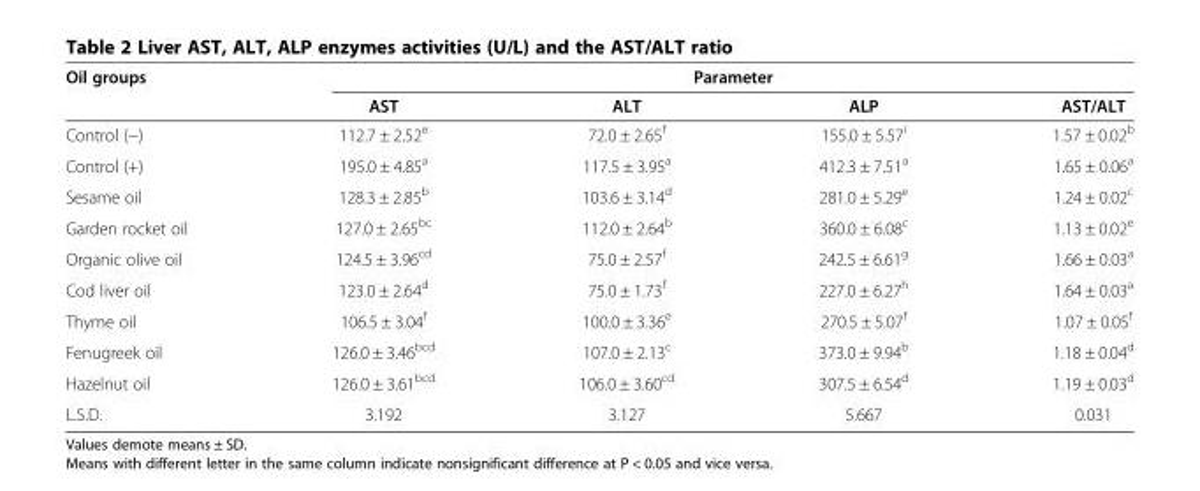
<table><thead><tr><td rowspan="2">Oil groups</td><td colspan="4">Parameter</td></tr><tr><td>AST</td><td>ALT</td><td>ALP</td><td>AST/ALT</td></tr></thead><tbody><tr><td>Control (−)</td><td>112.7 ± 2.52<sup>e</sup></td><td>72.0 ± 2.65<sup>f</sup></td><td>155.0 ± 5.57<sup>i</sup></td><td>1.57 ± 0.02<sup>b</sup></td></tr><tr><td>Control (+)</td><td>195.0 ± 4.85<sup>a</sup></td><td>117.5 ± 3.95<sup>a</sup></td><td>412.3 ± 7.51<sup>a</sup></td><td>1.65 ± 0.06<sup>a</sup></td></tr><tr><td>Sesame oil</td><td>128.3 ± 2.85<sup>b</sup></td><td>103.6 ± 3.14<sup>d</sup></td><td>281.0 ± 5.29<sup>e</sup></td><td>1.24 ± 0.02<sup>c</sup></td></tr><tr><td>Garden rocket oil</td><td>127.0 ± 2.65<sup>bc</sup></td><td>112.0 ± 2.64<sup>b</sup></td><td>360.0 ± 6.08<sup>c</sup></td><td>1.13 ± 0.02<sup>e</sup></td></tr><tr><td>Organic olive oil</td><td>124.5 ± 3.96<sup>cd</sup></td><td>75.0 ± 2.57<sup>f</sup></td><td>242.5 ± 6.61<sup>g</sup></td><td>1.66 ± 0.03<sup>a</sup></td></tr><tr><td>Cod liver oil</td><td>123.0 ± 2.64<sup>d</sup></td><td>75.0 ± 1.73<sup>f</sup></td><td>227.0 ± 6.27<sup>h</sup></td><td>1.64 ± 0.03<sup>a</sup></td></tr><tr><td>Thyme oil</td><td>106.5 ± 3.04<sup>f</sup></td><td>100.0 ± 3.36<sup>e</sup></td><td>270.5 ± 5.07<sup>f</sup></td><td>1.07 ± 0.05<sup>f</sup></td></tr><tr><td>Fenugreek oil</td><td>126.0 ± 3.46<sup>bcd</sup></td><td>107.0 ± 2.13<sup>c</sup></td><td>373.0 ± 9.94<sup>b</sup></td><td>1.18 ± 0.04<sup>d</sup></td></tr><tr><td>Hazelnut oil</td><td>126.0 ± 3.61<sup>bcd</sup></td><td>106.0 ± 3.60<sup>cd</sup></td><td>307.5 ± 6.54<sup>d</sup></td><td>1.19 ± 0.03<sup>d</sup></td></tr><tr><td>L.S.D.</td><td>3.192</td><td>3.127</td><td>5.667</td><td>0.031</td></tr></tbody></table>